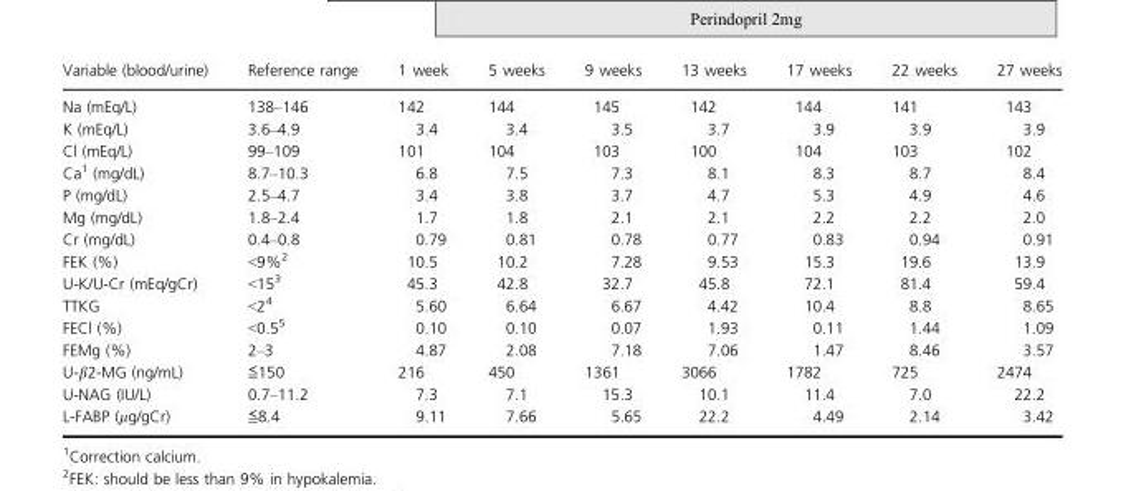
<table><thead><tr><td>Variable (blood/urine)</td><td>Reference range</td><td>1 week</td><td>5 weeks</td><td>9 weeks</td><td>13 weeks</td><td>17 weeks</td><td>22 weeks</td><td>27 weeks</td></tr></thead><tbody><tr><td>Na (mEq/L)</td><td>138–146</td><td>142</td><td>144</td><td>145</td><td>142</td><td>144</td><td>141</td><td>143</td></tr><tr><td>K (mEq/L)</td><td>3.6–4.9</td><td>3.4</td><td>3.4</td><td>3.5</td><td>3.7</td><td>3.9</td><td>3.9</td><td>3.9</td></tr><tr><td>Cl (mEq/L)</td><td>99–109</td><td>101</td><td>104</td><td>103</td><td>100</td><td>104</td><td>103</td><td>102</td></tr><tr><td>Ca1 (mg/dL)</td><td>8.7–10.3</td><td>6.8</td><td>7.5</td><td>7.3</td><td>8.1</td><td>8.3</td><td>8.7</td><td>8.4</td></tr><tr><td>P (mg/dL)</td><td>2.5–4.7</td><td>3.4</td><td>3.8</td><td>3.7</td><td>4.7</td><td>5.3</td><td>4.9</td><td>4.6</td></tr><tr><td>Mg (mg/dL)</td><td>1.8–2.4</td><td>1.7</td><td>1.8</td><td>2.1</td><td>2.1</td><td>2.2</td><td>2.2</td><td>2.0</td></tr><tr><td>Cr (mg/dL)</td><td>0.4–0.8</td><td>0.79</td><td>0.81</td><td>0.78</td><td>0.77</td><td>0.83</td><td>0.94</td><td>0.91</td></tr><tr><td>FEK (%)</td><td>&lt;9%2</td><td>10.5</td><td>10.2</td><td>7.28</td><td>9.53</td><td>15.3</td><td>19.6</td><td>13.9</td></tr><tr><td>U-K/U-Cr (mEq/gCr)</td><td>&lt;153</td><td>45.3</td><td>42.8</td><td>32.7</td><td>45.8</td><td>72.1</td><td>81.4</td><td>59.4</td></tr><tr><td>TTKG</td><td>&lt;24</td><td>5.60</td><td>6.64</td><td>6.67</td><td>4.42</td><td>10.4</td><td>8.8</td><td>8.65</td></tr><tr><td>FECl (%)</td><td>&lt;0.55</td><td>0.10</td><td>0.10</td><td>0.07</td><td>1.93</td><td>0.11</td><td>1.44</td><td>1.09</td></tr><tr><td>FEMg (%)</td><td>2–3</td><td>4.87</td><td>2.08</td><td>7.18</td><td>7.06</td><td>1.47</td><td>8.46</td><td>3.57</td></tr><tr><td>U-β2-MG (ng/mL)</td><td>≦150</td><td>216</td><td>450</td><td>1361</td><td>3066</td><td>1782</td><td>725</td><td>2474</td></tr><tr><td>U-NAG (IU/L)</td><td>0.7–11.2</td><td>7.3</td><td>7.1</td><td>15.3</td><td>10.1</td><td>11.4</td><td>7.0</td><td>22.2</td></tr><tr><td>L-FABP (μg/gCr)</td><td>≦8.4</td><td>9.11</td><td>7.66</td><td>5.65</td><td>22.2</td><td>4.49</td><td>2.14</td><td>3.42</td></tr></tbody></table>